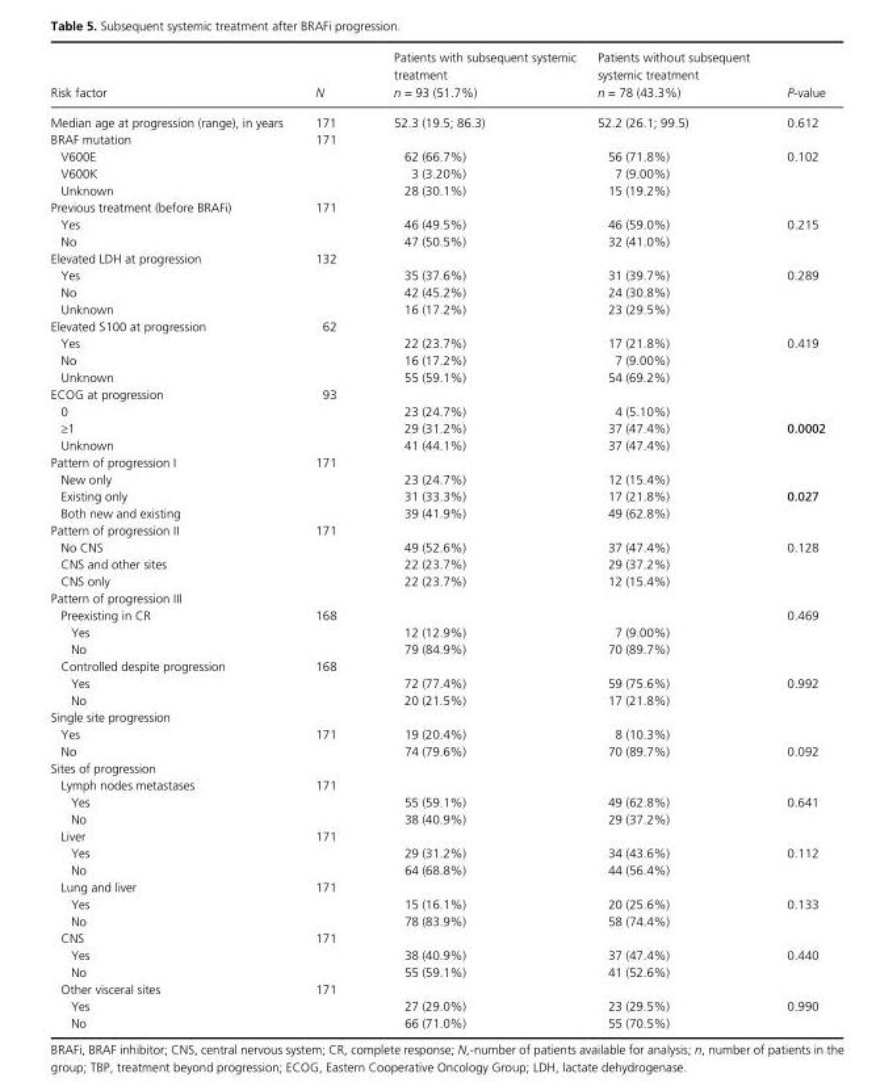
<table><thead><tr><td>Risk factor</td><td>N</td><td>Patients with subsequent systemic treatment n = 93 (51.7%)</td><td>Patients without subsequent systemic treatment n = 78 (43.3%)</td><td>P- value</td></tr></thead><tbody><tr><td>Median age at progression (range), in years</td><td>171</td><td>52.3 (19.5; 86.3)</td><td>52.2 (26.1; 99.5)</td><td>0.612</td></tr><tr><td>BRAF mutation</td><td>171</td><td></td><td></td><td></td></tr><tr><td>V600E</td><td></td><td>62 (66.7%)</td><td>56 (71.8%)</td><td>0.102</td></tr><tr><td>V600K</td><td></td><td>3 (3.20%)</td><td>7 (9.00%)</td><td></td></tr><tr><td>Unknown</td><td></td><td>28 (30.1%)</td><td>15 (19.2%)</td><td></td></tr><tr><td>Previous treatment (before BRAFi)</td><td>171</td><td></td><td></td><td></td></tr><tr><td>Yes</td><td></td><td>46 (49.5%)</td><td>46 (59.0%)</td><td>0.215</td></tr><tr><td>No</td><td></td><td>47 (50.5%)</td><td>32 (41.0%)</td><td></td></tr><tr><td>Elevated LDH at progression</td><td>132</td><td></td><td></td><td></td></tr><tr><td>Yes</td><td></td><td>35 (37.6%)</td><td>31 (39.7%)</td><td>0.289</td></tr><tr><td>No</td><td></td><td>42 (45.2%)</td><td>24 (30.8%)</td><td></td></tr><tr><td>Unknown</td><td></td><td>16 (17.2%)</td><td>23 (29.5%)</td><td></td></tr><tr><td>Elevated S100 at progression</td><td>62</td><td></td><td></td><td></td></tr><tr><td>Yes</td><td></td><td>22 (23.7%)</td><td>17 (21.8%)</td><td>0.419</td></tr><tr><td>No</td><td></td><td>16 (17.2%)</td><td>7 (9.00%)</td><td></td></tr><tr><td>Unknown</td><td></td><td>55 (59.1%)</td><td>54 (69.2%)</td><td></td></tr><tr><td>ECOG at progression</td><td>93</td><td></td><td></td><td></td></tr><tr><td>0</td><td></td><td>23 (24.7%)</td><td>4 (5.10%)</td><td></td></tr><tr><td>≥1</td><td></td><td>29 (31.2%)</td><td>37 (47.4%)</td><td>0.0002</td></tr><tr><td>Unknown</td><td></td><td>41 (44.1%)</td><td>37 (47.4%)</td><td></td></tr><tr><td>Pattern of progression I</td><td>171</td><td></td><td></td><td></td></tr><tr><td>New only</td><td></td><td>23 (24.7%)</td><td>12 (15.4%)</td><td></td></tr><tr><td>Existing only</td><td></td><td>31 (33.3%)</td><td>17 (21.8%)</td><td>0.027</td></tr><tr><td>Both new and existing</td><td></td><td>39 (41.9%)</td><td>49 (62.8%)</td><td></td></tr><tr><td>Pattern of progression II</td><td>171</td><td></td><td></td><td></td></tr><tr><td>No CNS</td><td></td><td>49 (52.6%)</td><td>37 (47.4%)</td><td>0.128</td></tr><tr><td>CNS and other sites</td><td></td><td>22 (23.7%)</td><td>29 (37.2%)</td><td></td></tr><tr><td>CNS only</td><td></td><td>22 (23.7%)</td><td>12 (15.4%)</td><td></td></tr><tr><td colspan="5">Pattern of progression III</td></tr><tr><td>Preexisting in CR</td><td>168</td><td></td><td></td><td>0.469</td></tr><tr><td>Yes</td><td></td><td>12 (12.9%)</td><td>7 (9.00%)</td><td></td></tr><tr><td>No</td><td></td><td>79 (84.9%)</td><td>70 (89.7%)</td><td></td></tr><tr><td>Controlled despite progression</td><td>168</td><td></td><td></td><td></td></tr><tr><td>Yes</td><td></td><td>72 (77.4%)</td><td>59 (75.6%)</td><td>0.992</td></tr><tr><td>No</td><td></td><td>20 (21.5%)</td><td>17 (21.8%)</td><td></td></tr><tr><td colspan="5">Single site progression</td></tr><tr><td>Yes</td><td>171</td><td>19 (20.4%)</td><td>8 (10.3%)</td><td></td></tr><tr><td>No</td><td></td><td>74 (79.6%)</td><td>70 (89.7%)</td><td>0.092</td></tr><tr><td colspan="5">Sites of progression</td></tr><tr><td>Lymph nodes metastases</td><td>171</td><td></td><td></td><td></td></tr><tr><td>Yes</td><td></td><td>55 (59.1%)</td><td>49 (62.8%)</td><td>0.641</td></tr><tr><td>No</td><td></td><td>38 (40.9%)</td><td>29 (37.2%)</td><td></td></tr><tr><td>Liver</td><td>171</td><td></td><td></td><td></td></tr><tr><td>Yes</td><td></td><td>29 (31.2%)</td><td>34 (43.6%)</td><td>0.112</td></tr><tr><td>No</td><td></td><td>64 (68.8%)</td><td>44 (56.4%)</td><td></td></tr><tr><td>Lung and liver</td><td>171</td><td></td><td></td><td></td></tr><tr><td>Yes</td><td></td><td>15 (16.1%)</td><td>20 (25.6%)</td><td>0.133</td></tr><tr><td>No</td><td></td><td>78 (83.9%)</td><td>58 (74.4%)</td><td></td></tr><tr><td>CNS</td><td>171</td><td></td><td></td><td></td></tr><tr><td>Yes</td><td></td><td>38 (40.9%)</td><td>37 (47.4%)</td><td>0.440</td></tr><tr><td>No</td><td></td><td>55 (59.1%)</td><td>41 (52.6%)</td><td></td></tr><tr><td>Other visceral sites</td><td>171</td><td></td><td></td><td></td></tr><tr><td>Yes</td><td></td><td>27 (29.0%)</td><td>23 (29.5%)</td><td>0.990</td></tr><tr><td>No</td><td></td><td>66 (71.0%)</td><td>55 (70.5%)</td><td></td></tr></tbody></table>